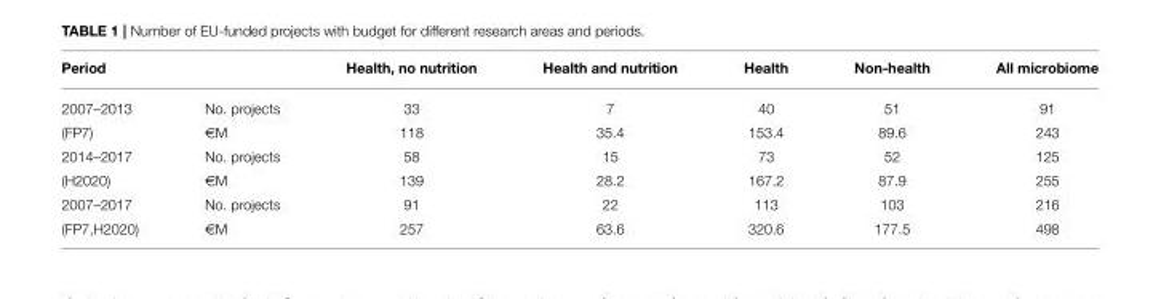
<table><thead><tr><td>Period</td><td></td><td>Health, no nutrition</td><td>Health and nutrition</td><td>Health</td><td>Non-health</td><td>All microbiome</td></tr></thead><tbody><tr><td>2007–2013</td><td>No. projects</td><td>33</td><td>7</td><td>40</td><td>51</td><td>91</td></tr><tr><td>(FP7)</td><td>€M</td><td>118</td><td>35.4</td><td>153.4</td><td>89.6</td><td>243</td></tr><tr><td>2014–2017</td><td>No. projects</td><td>58</td><td>15</td><td>73</td><td>52</td><td>125</td></tr><tr><td>(H2020)</td><td>€M</td><td>139</td><td>28.2</td><td>167.2</td><td>87.9</td><td>255</td></tr><tr><td>2007–2017</td><td>No. projects</td><td>91</td><td>22</td><td>113</td><td>103</td><td>216</td></tr><tr><td>(FP7,H2020)</td><td>€M</td><td>257</td><td>63.6</td><td>320.6</td><td>177.5</td><td>498</td></tr></tbody></table>